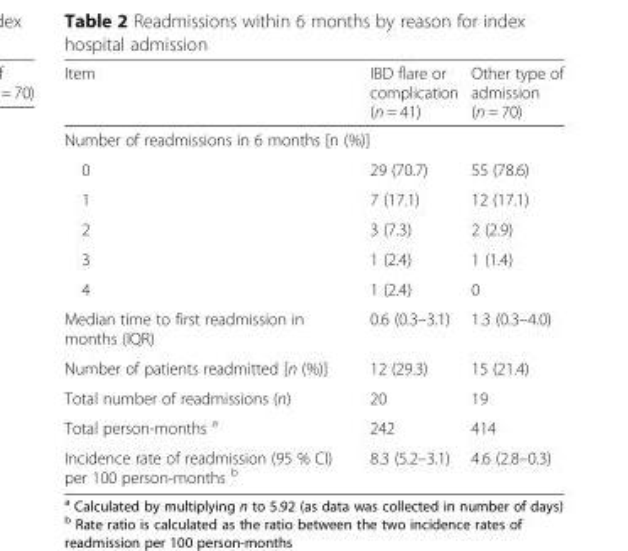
<table><thead><tr><td>Item</td><td>IBD flare or complication (n = 41)</td><td>Other type of admission (n = 70)</td></tr></thead><tbody><tr><td colspan="3">Number of readmissions in 6 months [n (%)]</td></tr><tr><td>0</td><td>29 (70.7)</td><td>55 (78.6)</td></tr><tr><td>1</td><td>7 (17.1)</td><td>12 (17.1)</td></tr><tr><td>2</td><td>3 (7.3)</td><td>2 (2.9)</td></tr><tr><td>3</td><td>1 (2.4)</td><td>1 (1.4)</td></tr><tr><td>4</td><td>1 (2.4)</td><td>0</td></tr><tr><td>Median time to first readmission in months (IQR)</td><td>0.6 (0.3–3.1)</td><td>1.3 (0.3–4.0)</td></tr><tr><td>Number of patients readmitted [n (%)]</td><td>12 (29.3)</td><td>15 (21.4)</td></tr><tr><td>Total number of readmissions (n)</td><td>20</td><td>19</td></tr><tr><td>Total person-months <sup>a</sup></td><td>242</td><td>414</td></tr><tr><td>Incidence rate of readmission (95 % CI) per 100 person-months <sup>b</sup></td><td>8.3 (5.2–3.1)</td><td>4.6 (2.8–0.3)</td></tr></tbody></table>